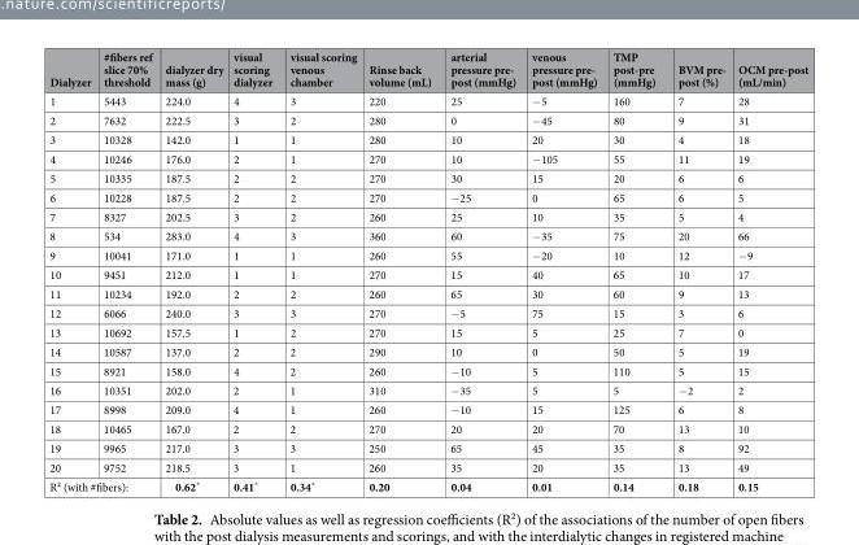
<table><thead><tr><td>Dialyzer</td><td>#fibers ref slice 70% threshold</td><td>dialyzer dry mass (g)</td><td>visual scoring dialyzer</td><td>visual scoring venous chamber</td><td>Rinse back volume (mL)</td><td>arterial pressure pre- post (mmHg)</td><td>venous pressure pre- post (mmHg)</td><td>TMP post-pre (mmHg)</td><td>BVM pre- post (%)</td><td>OCM pre-post (mL/min)</td></tr></thead><tbody><tr><td>1</td><td>5443</td><td>224.0</td><td>4</td><td>3</td><td>220</td><td>25</td><td>−5</td><td>160</td><td>7</td><td>28</td></tr><tr><td>2</td><td>7632</td><td>222.5</td><td>3</td><td>2</td><td>280</td><td>0</td><td>−45</td><td>80</td><td>9</td><td>31</td></tr><tr><td>3</td><td>10328</td><td>142.0</td><td>1</td><td>1</td><td>280</td><td>10</td><td>20</td><td>30</td><td>4</td><td>18</td></tr><tr><td>4</td><td>10246</td><td>176.0</td><td>2</td><td>1</td><td>270</td><td>10</td><td>−105</td><td>55</td><td>11</td><td>19</td></tr><tr><td>5</td><td>10335</td><td>187.5</td><td>2</td><td>2</td><td>270</td><td>30</td><td>15</td><td>20</td><td>6</td><td>6</td></tr><tr><td>6</td><td>10228</td><td>187.5</td><td>2</td><td>2</td><td>270</td><td>−25</td><td>0</td><td>65</td><td>6</td><td>5</td></tr><tr><td>7</td><td>8327</td><td>202.5</td><td>3</td><td>2</td><td>260</td><td>25</td><td>10</td><td>35</td><td>5</td><td>4</td></tr><tr><td>8</td><td>534</td><td>283.0</td><td>4</td><td>3</td><td>360</td><td>60</td><td>−35</td><td>75</td><td>20</td><td>66</td></tr><tr><td>9</td><td>10041</td><td>171.0</td><td>1</td><td>1</td><td>260</td><td>55</td><td>−20</td><td>10</td><td>12</td><td>−9</td></tr><tr><td>10</td><td>9451</td><td>212.0</td><td>1</td><td>1</td><td>270</td><td>15</td><td>40</td><td>65</td><td>10</td><td>17</td></tr><tr><td>11</td><td>10234</td><td>192.0</td><td>2</td><td>2</td><td>260</td><td>65</td><td>30</td><td>60</td><td>9</td><td>13</td></tr><tr><td>12</td><td>6066</td><td>240.0</td><td>3</td><td>3</td><td>270</td><td>−5</td><td>75</td><td>15</td><td>3</td><td>6</td></tr><tr><td>13</td><td>10692</td><td>157.5</td><td>1</td><td>2</td><td>270</td><td>15</td><td>5</td><td>25</td><td>7</td><td>0</td></tr><tr><td>14</td><td>10587</td><td>137.0</td><td>2</td><td>2</td><td>290</td><td>10</td><td>0</td><td>50</td><td>5</td><td>19</td></tr><tr><td>15</td><td>8921</td><td>158.0</td><td>4</td><td>2</td><td>260</td><td>−10</td><td>5</td><td>110</td><td>5</td><td>15</td></tr><tr><td>16</td><td>10351</td><td>202.0</td><td>2</td><td>1</td><td>310</td><td>−35</td><td>5</td><td>5</td><td>−2</td><td>2</td></tr><tr><td>17</td><td>8998</td><td>209.0</td><td>4</td><td>1</td><td>260</td><td>−10</td><td>15</td><td>125</td><td>6</td><td>8</td></tr><tr><td>18</td><td>10465</td><td>167.0</td><td>2</td><td>2</td><td>270</td><td>20</td><td>20</td><td>70</td><td>13</td><td>10</td></tr><tr><td>19</td><td>9965</td><td>217.0</td><td>3</td><td>3</td><td>250</td><td>65</td><td>45</td><td>35</td><td>8</td><td>92</td></tr><tr><td>20</td><td>9752</td><td>218.5</td><td>3</td><td>1</td><td>260</td><td>35</td><td>20</td><td>35</td><td>13</td><td>49</td></tr><tr><td colspan="2">R² (with #fibers):</td><td>0.62*</td><td>0.41*</td><td>0.34*</td><td>0.20</td><td>0.04</td><td>0.01</td><td>0.14</td><td>0.18</td><td>0.15</td></tr></tbody></table>